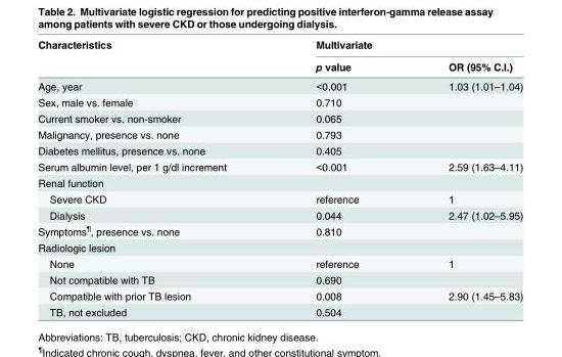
<table><thead><tr><td rowspan="2">Characteristics</td><td colspan="2">Multivariate</td></tr><tr><td>p value</td><td>OR (95% C.I.)</td></tr></thead><tbody><tr><td>Age, year</td><td>&lt;0.001</td><td>1.03 (1.01–1.04)</td></tr><tr><td>Sex, male vs. female</td><td>0.710</td><td></td></tr><tr><td>Current smoker vs. non-smoker</td><td>0.065</td><td></td></tr><tr><td>Malignancy, presence vs. none</td><td>0.793</td><td></td></tr><tr><td>Diabetes mellitus, presence vs. none</td><td>0.405</td><td></td></tr><tr><td>Serum albumin level, per 1 g/dl increment</td><td>&lt;0.001</td><td>2.59 (1.63–4.11)</td></tr><tr><td colspan="3">Renal function</td></tr><tr><td>Severe CKD</td><td>reference</td><td>1</td></tr><tr><td>Dialysis</td><td>0.044</td><td>2.47 (1.02–5.95)</td></tr><tr><td>Symptoms<sup>¶</sup>, presence vs. none</td><td>0.810</td><td></td></tr><tr><td colspan="3">Radiologic lesion</td></tr><tr><td>None</td><td>reference</td><td>1</td></tr><tr><td>Not compatible with TB</td><td>0.690</td><td></td></tr><tr><td>Compatible with prior TB lesion</td><td>0.008</td><td>2.90 (1.45–5.83)</td></tr><tr><td>TB, not excluded</td><td>0.504</td><td></td></tr></tbody></table>